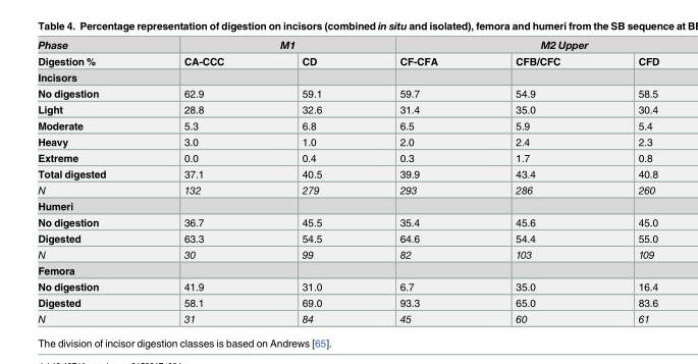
<table><thead><tr><td rowspan="2">Phase Digestion %</td><td colspan="2">M1</td><td colspan="3">M2 Upper</td></tr><tr><td>CA-CCC</td><td>CD</td><td>CF-CFA</td><td>CFB/CFC</td><td>CFD</td></tr></thead><tbody><tr><td colspan="6">Incisors</td></tr><tr><td>No digestion</td><td>62.9</td><td>59.1</td><td>59.7</td><td>54.9</td><td>58.5</td></tr><tr><td>Light</td><td>28.8</td><td>32.6</td><td>31.4</td><td>35.0</td><td>30.4</td></tr><tr><td>Moderate</td><td>5.3</td><td>6.8</td><td>6.5</td><td>5.9</td><td>5.4</td></tr><tr><td>Heavy</td><td>3.0</td><td>1.0</td><td>2.0</td><td>2.4</td><td>2.3</td></tr><tr><td>Extreme</td><td>0.0</td><td>0.4</td><td>0.3</td><td>1.7</td><td>0.8</td></tr><tr><td>Total digested</td><td>37.1</td><td>40.5</td><td>39.9</td><td>43.4</td><td>40.8</td></tr><tr><td>N</td><td>132</td><td>279</td><td>293</td><td>286</td><td>260</td></tr><tr><td colspan="6">Humeri</td></tr><tr><td>No digestion</td><td>36.7</td><td>45.5</td><td>35.4</td><td>45.6</td><td>45.0</td></tr><tr><td>Digested</td><td>63.3</td><td>54.5</td><td>64.6</td><td>54.4</td><td>55.0</td></tr><tr><td>N</td><td>30</td><td>99</td><td>82</td><td>103</td><td>109</td></tr><tr><td colspan="6">Femora</td></tr><tr><td>No digestion</td><td>41.9</td><td>31.0</td><td>6.7</td><td>35.0</td><td>16.4</td></tr><tr><td>Digested</td><td>58.1</td><td>69.0</td><td>93.3</td><td>65.0</td><td>83.6</td></tr><tr><td>N</td><td>31</td><td>84</td><td>45</td><td>60</td><td>61</td></tr></tbody></table>